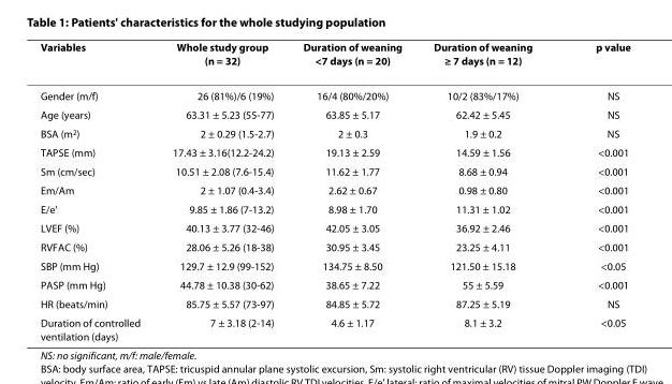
<table><thead><tr><td>Variables</td><td>Whole study group (n = 32)</td><td>Duration of weaning &lt;7 days (n = 20)</td><td>Duration of weaning ≥ 7 days (n = 12)</td><td>p value</td></tr></thead><tbody><tr><td>Gender (m/f)</td><td>26 (81%)/6 (19%)</td><td>16/4 (80%/20%)</td><td>10/2 (83%/17%)</td><td>NS</td></tr><tr><td>Age (years)</td><td>63.31 ± 5.23 (55-77)</td><td>63.85 ± 5.17</td><td>62.42 ± 5.45</td><td>NS</td></tr><tr><td>BSA (m<sup>2</sup>)</td><td>2 ± 0.29 (1.5-2.7)</td><td>2 ± 0.3</td><td>1.9 ± 0.2</td><td>NS</td></tr><tr><td>TAPSE (mm)</td><td>17.43 ± 3.16(12.2-24.2)</td><td>19.13 ± 2.59</td><td>14.59 ± 1.56</td><td>&lt;0.001</td></tr><tr><td>Sm (cm/sec)</td><td>10.51 ± 2.08 (7.6-15.4)</td><td>11.62 ± 1.77</td><td>8.68 ± 0.94</td><td>&lt;0.001</td></tr><tr><td>Em/Am</td><td>2 ± 1.07 (0.4-3.4)</td><td>2.62 ± 0.67</td><td>0.98 ± 0.80</td><td>&lt;0.001</td></tr><tr><td>Ε/e&#x27;</td><td>9.85 ± 1.86 (7-13.2)</td><td>8.98 ± 1.70</td><td>11.31 ± 1.02</td><td>&lt;0.001</td></tr><tr><td>LVEF (%)</td><td>40.13 ± 3.77 (32-46)</td><td>42.05 ± 3.05</td><td>36.92 ± 2.46</td><td>&lt;0.001</td></tr><tr><td>RVFAC (%)</td><td>28.06 ± 5.26 (18-38)</td><td>30.95 ± 3.45</td><td>23.25 ± 4.11</td><td>&lt;0.001</td></tr><tr><td>SBP (mm Hg)</td><td>129.7 ± 12.9 (99-152)</td><td>134.75 ± 8.50</td><td>121.50 ± 15.18</td><td>&lt;0.05</td></tr><tr><td>PASP (mm Hg)</td><td>44.78 ± 10.38 (30-62)</td><td>38.65 ± 7.22</td><td>55 ± 5.59</td><td>&lt;0.001</td></tr><tr><td>HR (beats/min)</td><td>85.75 ± 5.57 (73-97)</td><td>84.85 ± 5.72</td><td>87.25 ± 5.19</td><td>NS</td></tr><tr><td>Duration of controlled ventilation (days)</td><td>7 ± 3.18 (2-14)</td><td>4.6 ± 1.17</td><td>8.1 ± 3.2</td><td>&lt;0.05</td></tr></tbody></table>